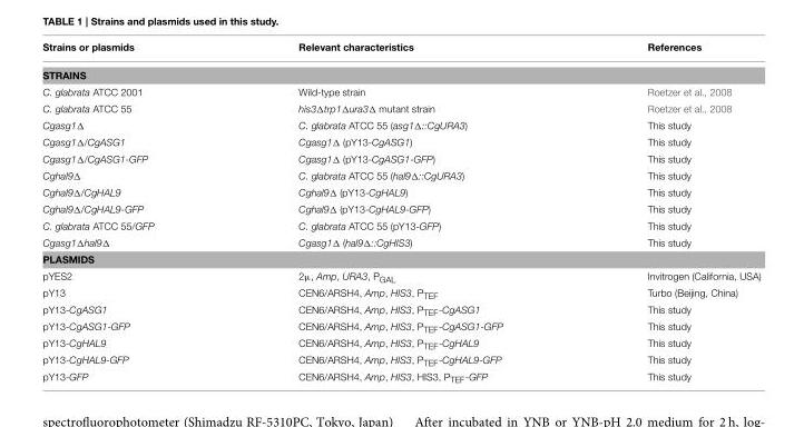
<table><thead><tr><td>Strains or plasmids</td><td>Relevant characteristics</td><td>References</td></tr></thead><tbody><tr><td colspan="3">STRAINS</td></tr><tr><td>C. glabrata ATCC 2001</td><td>Wild-type strain</td><td>Roetzer et al., 2008</td></tr><tr><td>C. glabrata ATCC 55</td><td>his3Δtrp1Δura3Δ mutant strain</td><td>Roetzer et al., 2008</td></tr><tr><td>Cgasg1Δ</td><td>C. glabrata ATCC 55 (asg1Δ::CgURA3)</td><td>This study</td></tr><tr><td>Cgasg1Δ/CgASG1</td><td>Cgasg1Δ (pY13-CgASG1)</td><td>This study</td></tr><tr><td>Cgasg1Δ/CgASG1-GFP</td><td>Cgasg1Δ (pY13-CgASG1-GFP)</td><td>This study</td></tr><tr><td>Cghal9Δ</td><td>C. glabrata ATCC 55 (hal9Δ::CgURA3)</td><td>This study</td></tr><tr><td>Cghal9Δ/CgHAL9</td><td>Cghal9Δ (pY13-CgHAL9)</td><td>This study</td></tr><tr><td>Cghal9Δ/CgHAL9-GFP</td><td>Cghal9Δ (pY13-CgHAL9-GFP)</td><td>This study</td></tr><tr><td>C. glabrata ATCC 55/GFP</td><td>C. glabrata ATCC 55 (pY13-GFP)</td><td>This study</td></tr><tr><td>Cgasg1Δhal9Δ</td><td>Cgasg1Δ (hal9Δ::CgHIS3)</td><td>This study</td></tr><tr><td colspan="3">PLASMIDS</td></tr><tr><td>pYES2</td><td>2µ, Amp, URA3, P<sub>GAL</sub></td><td>Invitrogen (California, USA)</td></tr><tr><td>pY13</td><td>CEN6/ARSH4, Amp, HIS3, P<sub>TEF</sub></td><td>Turbo (Beijing, China)</td></tr><tr><td>pY13-CgASG1</td><td>CEN6/ARSH4, Amp, HIS3, P<sub>TEF</sub>-CgASG1</td><td>This study</td></tr><tr><td>pY13-CgASG1-GFP</td><td>CEN6/ARSH4, Amp, HIS3, P<sub>TEF</sub>-CgASG1-GFP</td><td>This study</td></tr><tr><td>pY13-CgHAL9</td><td>CEN6/ARSH4, Amp, HIS3, P<sub>TEF</sub>-CgHAL9</td><td>This study</td></tr><tr><td>pY13-CgHAL9-GFP</td><td>CEN6/ARSH4, Amp, HIS3, P<sub>TEF</sub>-CgHAL9-GFP</td><td>This study</td></tr><tr><td>pY13-GFP</td><td>CEN6/ARSH4, Amp, HIS3, HIS3, P<sub>TEF</sub>-GFP</td><td>This study</td></tr></tbody></table>